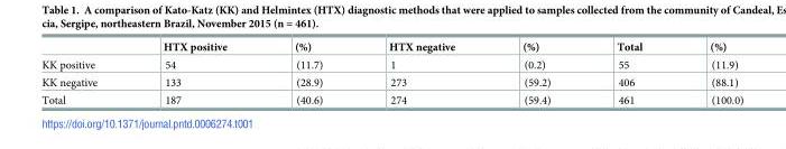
<table><thead><tr><td></td><td>HTX positive</td><td>(%)</td><td>HTX negative</td><td>(%)</td><td>Total</td><td>(%)</td></tr></thead><tbody><tr><td>KK positive</td><td>54</td><td>(11.7)</td><td>1</td><td>(0.2)</td><td>55</td><td>(11.9)</td></tr><tr><td>KK negative</td><td>133</td><td>(28.9)</td><td>273</td><td>(59.2)</td><td>406</td><td>(88.1)</td></tr><tr><td>Total</td><td>187</td><td>(40.6)</td><td>274</td><td>(59.4)</td><td>461</td><td>(100.0)</td></tr></tbody></table>